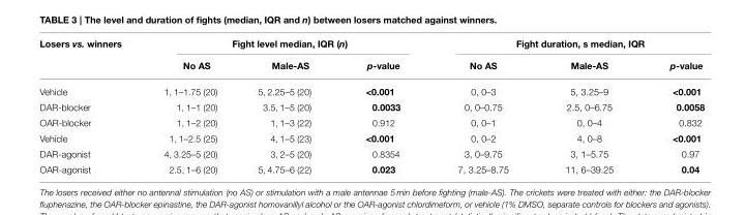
<table><thead><tr><td rowspan="2">Losers vs. winners</td><td colspan="3">Fight level median, IQR (n)</td><td colspan="3">Fight duration, s median, IQR</td></tr><tr><td>No AS</td><td>Male-AS</td><td>p-value</td><td>No AS</td><td>Male-AS</td><td>p-value</td></tr></thead><tbody><tr><td>Vehicle</td><td>1, 1–1.75 (20)</td><td>5, 2.25–5 (20)</td><td>&lt;0.001</td><td>0, 0–3</td><td>5, 3.25–9</td><td>&lt;0.001</td></tr><tr><td>DAR-blocker</td><td>1, 1–1 (20)</td><td>3.5, 1–5 (20)</td><td>0.0033</td><td>0, 0–0.75</td><td>2.5, 0–6.75</td><td>0.0058</td></tr><tr><td>OAR-blocker</td><td>1, 1–2 (20)</td><td>1, 1–3 (22)</td><td>0.912</td><td>0, 0–1</td><td>0, 0–4</td><td>0.832</td></tr><tr><td>Vehicle</td><td>1, 1–2.5 (25)</td><td>4, 1–5 (23)</td><td>&lt;0.001</td><td>0, 0–2</td><td>4, 0–8</td><td>&lt;0.001</td></tr><tr><td>DAR-agonist</td><td>4, 3.25–5 (20)</td><td>3, 2–5 (20)</td><td>0.8354</td><td>3, 0–9.75</td><td>3, 1–5.75</td><td>0.97</td></tr><tr><td>OAR-agonist</td><td>2.5, 1–6 (20)</td><td>5, 4.75–6 (22)</td><td>0.023</td><td>7, 3.25–8.75</td><td>11, 6–39.25</td><td>0.04</td></tr></tbody></table>